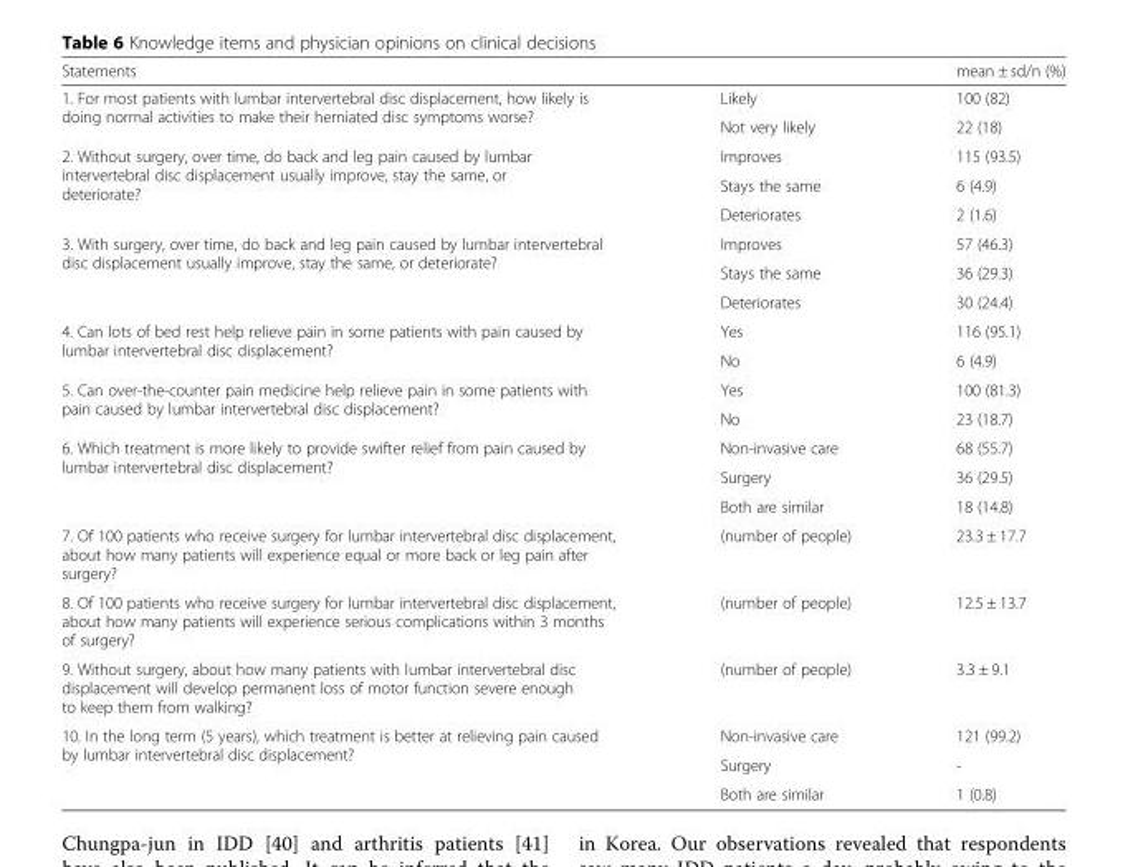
<table><thead><tr><td>Statements</td><td></td><td>mean ± sd/n (%)</td></tr></thead><tbody><tr><td rowspan="2">1. For most patients with lumbar intervertebral disc displacement, how likely is doing normal activities to make their herniated disc symptoms worse?</td><td>Likely</td><td>100 (82)</td></tr><tr><td>Not very likely</td><td>22 (18)</td></tr><tr><td rowspan="3">2. Without surgery, over time, do back and leg pain caused by lumbar intervertebral disc displacement usually improve, stay the same, or deteriorate?</td><td>Improves</td><td>115 (93.5)</td></tr><tr><td>Stays the same</td><td>6 (4.9)</td></tr><tr><td>Deteriorates</td><td>2 (1.6)</td></tr><tr><td rowspan="3">3. With surgery, over time, do back and leg pain caused by lumbar intervertebral disc displacement usually improve, stay the same, or deteriorate?</td><td>Improves</td><td>57 (46.3)</td></tr><tr><td>Stays the same</td><td>36 (29.3)</td></tr><tr><td>Deteriorates</td><td>30 (24.4)</td></tr><tr><td rowspan="2">4. Can lots of bed rest help relieve pain in some patients with pain caused by lumbar intervertebral disc displacement?</td><td>Yes</td><td>116 (95.1)</td></tr><tr><td>No</td><td>6 (4.9)</td></tr><tr><td rowspan="2">5. Can over-the-counter pain medicine help relieve pain in some patients with pain caused by lumbar intervertebral disc displacement?</td><td>Yes</td><td>100 (81.3)</td></tr><tr><td>No</td><td>23 (18.7)</td></tr><tr><td rowspan="3">6. Which treatment is more likely to provide swifter relief from pain caused by lumbar intervertebral disc displacement?</td><td>Non-invasive care</td><td>68 (55.7)</td></tr><tr><td>Surgery</td><td>36 (29.5)</td></tr><tr><td>Both are similar</td><td>18 (14.8)</td></tr><tr><td>7. Of 100 patients who receive surgery for lumbar intervertebral disc displacement, about how many patients will experience equal or more back or leg pain after surgery?</td><td>(number of people)</td><td>23.3 ± 17.7</td></tr><tr><td>8. Of 100 patients who receive surgery for lumbar intervertebral disc displacement, about how many patients will experience serious complications within 3 months of surgery?</td><td>(number of people)</td><td>12.5 ± 13.7</td></tr><tr><td>9. Without surgery, about how many patients with lumbar intervertebral disc displacement will develop permanent loss of motor function severe enough to keep them from walking?</td><td>(number of people)</td><td>3.3 ± 9.1</td></tr><tr><td rowspan="3">10. In the long term (5 years), which treatment is better at relieving pain caused by lumbar intervertebral disc displacement?</td><td>Non-invasive care</td><td>121 (99.2)</td></tr><tr><td>Surgery</td><td>-</td></tr><tr><td>Both are similar</td><td>1 (0.8)</td></tr></tbody></table>